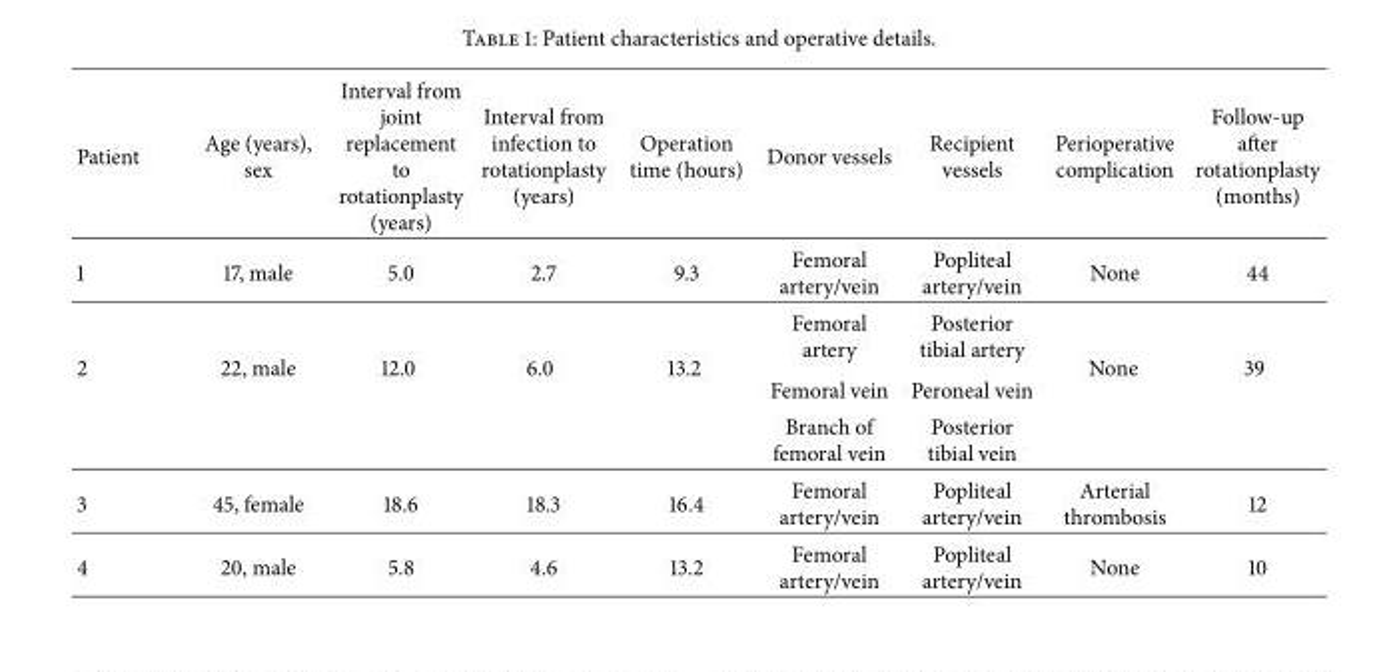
<table><thead><tr><td>Patient</td><td>Age (years), sex</td><td>Interval from joint replacement to rotationplasty (years)</td><td>Interval from infection to rotationplasty (years)</td><td>Operation time (hours)</td><td>Donor vessels</td><td>Recipient vessels</td><td>Perioperative complication</td><td>Follow-up after rotationplasty (months)</td></tr></thead><tbody><tr><td>1</td><td>17, male</td><td>5.0</td><td>2.7</td><td>9.3</td><td>Femoral artery/vein</td><td>Popliteal artery/vein</td><td>None</td><td>44</td></tr><tr><td rowspan="3">2</td><td rowspan="3">22, male</td><td rowspan="3">12.0</td><td rowspan="3">6.0</td><td rowspan="3">13.2</td><td>Femoral artery</td><td>Posterior tibial artery</td><td rowspan="3">None</td><td rowspan="3">39</td></tr><tr><td>Femoral vein</td><td>Peroneal vein</td></tr><tr><td>Branch of femoral vein</td><td>Posterior tibial vein</td></tr><tr><td>3</td><td>45, female</td><td>18.6</td><td>18.3</td><td>16.4</td><td>Femoral artery/vein</td><td>Popliteal artery/vein</td><td>Arterial thrombosis</td><td>12</td></tr><tr><td>4</td><td>20, male</td><td>5.8</td><td>4.6</td><td>13.2</td><td>Femoral artery/vein</td><td>Popliteal artery/vein</td><td>None</td><td>10</td></tr></tbody></table>